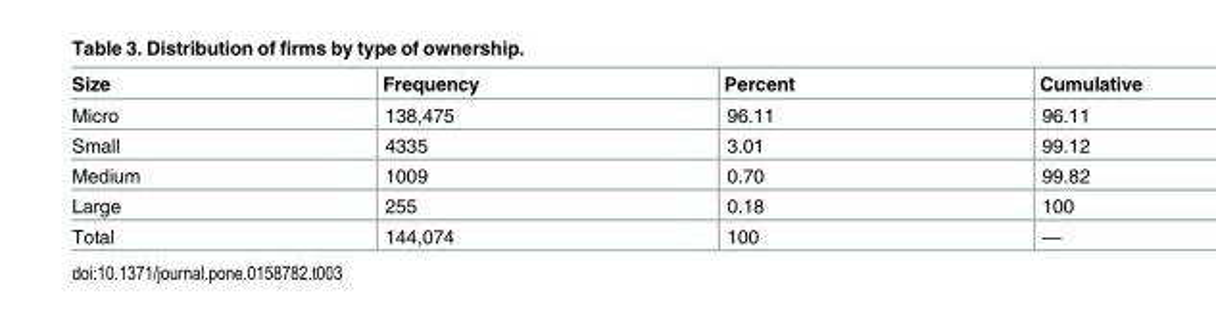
<table><thead><tr><td>Size</td><td>Frequency</td><td>Percent</td><td>Cumulative</td></tr></thead><tbody><tr><td>Micro</td><td>138,475</td><td>96.11</td><td>96.11</td></tr><tr><td>Small</td><td>4335</td><td>3.01</td><td>99.12</td></tr><tr><td>Medium</td><td>1009</td><td>0.70</td><td>99.82</td></tr><tr><td>Large</td><td>255</td><td>0.18</td><td>100</td></tr><tr><td>Total</td><td>144,074</td><td>100</td><td>—</td></tr></tbody></table>